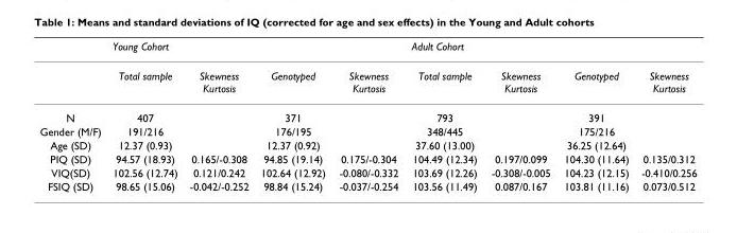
<table><thead><tr><td rowspan="2"></td><td colspan="4">Young Cohort</td><td colspan="4">Adult Cohort</td></tr><tr><td>Total sample</td><td>Skewness Kurtosis</td><td>Genotyped</td><td>Skewness Kurtosis</td><td>Total sample</td><td>Skewness Kurtosis</td><td>Genotyped</td><td>Skewness Kurtosis</td></tr></thead><tbody><tr><td>N</td><td>407</td><td></td><td>371</td><td></td><td>793</td><td></td><td>391</td><td></td></tr><tr><td>Gender (M/F)</td><td>191/216</td><td></td><td>176/195</td><td></td><td>348/445</td><td></td><td>175/216</td><td></td></tr><tr><td>Age (SD)</td><td>12.37 (0.93)</td><td></td><td>12.37 (0.92)</td><td></td><td>37.60 (13.00)</td><td></td><td>36.25 (12.64)</td><td></td></tr><tr><td>PIQ (SD)</td><td>94.57 (18.93)</td><td>0.165/-0.308</td><td>94.85 (19.14)</td><td>0.175/-0.304</td><td>104.49 (12.34)</td><td>0.197/0.099</td><td>104.30 (11.64)</td><td>0.135/0.312</td></tr><tr><td>VIQ(SD)</td><td>102.56 (12.74)</td><td>0.121/0.242</td><td>102.64 (12.92)</td><td>-0.080/-0.332</td><td>103.69 (12.26)</td><td>-0.308/-0.005</td><td>104.23 (12.15)</td><td>-0.410/0.256</td></tr><tr><td>FSIQ (SD)</td><td>98.65 (15.06)</td><td>-0.042/-0.252</td><td>98.84 (15.24)</td><td>-0.037/-0.254</td><td>103.56 (11.49)</td><td>0.087/0.167</td><td>103.81 (11.16)</td><td>0.073/0.512</td></tr></tbody></table>